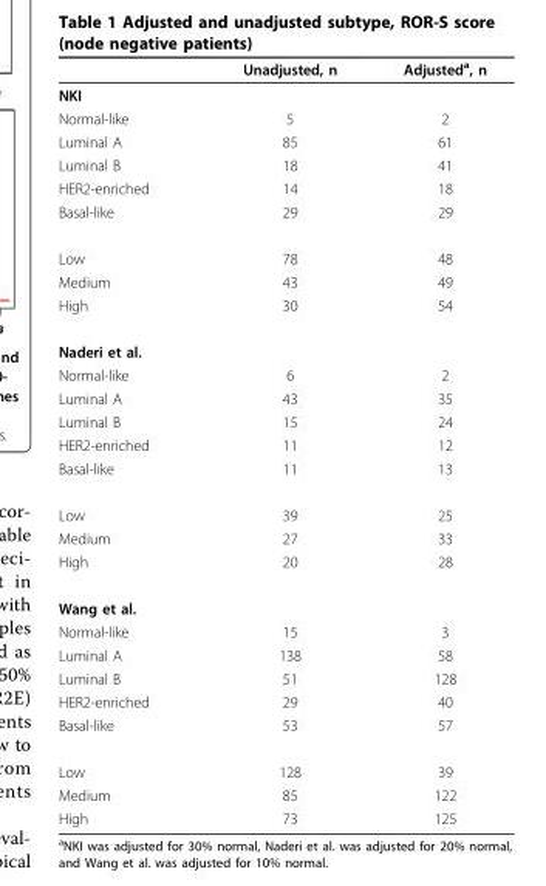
<table><thead><tr><td></td><td>Unadjusted, n</td><td>Adjusted<sup>a</sup>, n</td></tr></thead><tbody><tr><td colspan="3">NKI</td></tr><tr><td>Normal-like</td><td>5</td><td>2</td></tr><tr><td>Luminal A</td><td>85</td><td>61</td></tr><tr><td>Luminal B</td><td>18</td><td>41</td></tr><tr><td>HER2-enriched</td><td>14</td><td>18</td></tr><tr><td>Basal-like</td><td>29</td><td>29</td></tr><tr><td>Low</td><td>78</td><td>48</td></tr><tr><td>Medium</td><td>43</td><td>49</td></tr><tr><td>High</td><td>30</td><td>54</td></tr><tr><td colspan="3">Naderi et al.</td></tr><tr><td>Normal-like</td><td>6</td><td>2</td></tr><tr><td>Luminal A</td><td>43</td><td>35</td></tr><tr><td>Luminal B</td><td>15</td><td>24</td></tr><tr><td>HER2-enriched</td><td>11</td><td>12</td></tr><tr><td>Basal-like</td><td>11</td><td>13</td></tr><tr><td>Low</td><td>39</td><td>25</td></tr><tr><td>Medium</td><td>27</td><td>33</td></tr><tr><td>High</td><td>20</td><td>28</td></tr><tr><td colspan="3">Wang et al.</td></tr><tr><td>Normal-like</td><td>15</td><td>3</td></tr><tr><td>Luminal A</td><td>138</td><td>58</td></tr><tr><td>Luminal B</td><td>51</td><td>128</td></tr><tr><td>HER2-enriched</td><td>29</td><td>40</td></tr><tr><td>Basal-like</td><td>53</td><td>57</td></tr><tr><td>Low</td><td>128</td><td>39</td></tr><tr><td>Medium</td><td>85</td><td>122</td></tr><tr><td>High</td><td>73</td><td>125</td></tr></tbody></table>